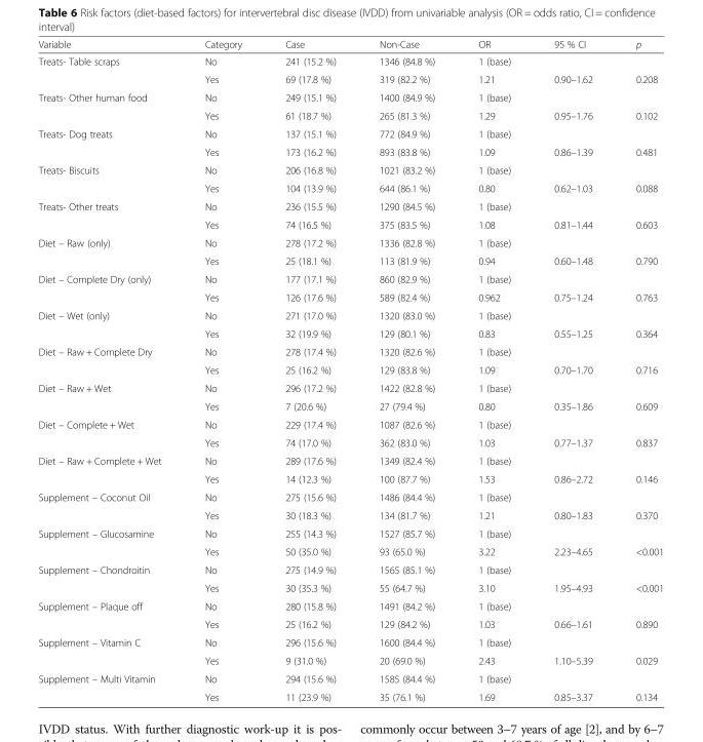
<table><thead><tr><td>Variable</td><td>Category</td><td>Case</td><td>Non-Case</td><td>OR</td><td>95 % CI</td><td>p</td></tr></thead><tbody><tr><td rowspan="2">Treats- Table scraps</td><td>No</td><td>241 (15.2 %)</td><td>1346 (84.8 %)</td><td>1 (base)</td><td></td><td></td></tr><tr><td>Yes</td><td>69 (17.8 %)</td><td>319 (82.2 %)</td><td>1.21</td><td>0.90–1.62</td><td>0.208</td></tr><tr><td rowspan="2">Treats- Other human food</td><td>No</td><td>249 (15.1 %)</td><td>1400 (84.9 %)</td><td>1 (base)</td><td></td><td></td></tr><tr><td>Yes</td><td>61 (18.7 %)</td><td>265 (81.3 %)</td><td>1.29</td><td>0.95–1.76</td><td>0.102</td></tr><tr><td rowspan="2">Treats- Dog treats</td><td>No</td><td>137 (15.1 %)</td><td>772 (84.9 %)</td><td>1 (base)</td><td></td><td></td></tr><tr><td>Yes</td><td>173 (16.2 %)</td><td>893 (83.8 %)</td><td>1.09</td><td>0.86–1.39</td><td>0.481</td></tr><tr><td rowspan="2">Treats- Biscuits</td><td>No</td><td>206 (16.8 %)</td><td>1021 (83.2 %)</td><td>1 (base)</td><td></td><td></td></tr><tr><td>Yes</td><td>104 (13.9 %)</td><td>644 (86.1 %)</td><td>0.80</td><td>0.62–1.03</td><td>0.088</td></tr><tr><td rowspan="2">Treats- Other treats</td><td>No</td><td>236 (15.5 %)</td><td>1290 (84.5 %)</td><td>1 (base)</td><td></td><td></td></tr><tr><td>Yes</td><td>74 (16.5 %)</td><td>375 (83.5 %)</td><td>1.08</td><td>0.81–1.44</td><td>0.603</td></tr><tr><td rowspan="2">Diet – Raw (only)</td><td>No</td><td>278 (17.2 %)</td><td>1336 (82.8 %)</td><td>1 (base)</td><td></td><td></td></tr><tr><td>Yes</td><td>25 (18.1 %)</td><td>113 (81.9 %)</td><td>0.94</td><td>0.60–1.48</td><td>0.790</td></tr><tr><td rowspan="2">Diet – Complete Dry (only)</td><td>No</td><td>177 (17.1 %)</td><td>860 (82.9 %)</td><td>1 (base)</td><td></td><td></td></tr><tr><td>Yes</td><td>126 (17.6 %)</td><td>589 (82.4 %)</td><td>0.962</td><td>0.75–1.24</td><td>0.763</td></tr><tr><td rowspan="2">Diet – Wet (only)</td><td>No</td><td>271 (17.0 %)</td><td>1320 (83.0 %)</td><td>1 (base)</td><td></td><td></td></tr><tr><td>Yes</td><td>32 (19.9 %)</td><td>129 (80.1 %)</td><td>0.83</td><td>0.55–1.25</td><td>0.364</td></tr><tr><td rowspan="2">Diet – Raw + Complete Dry</td><td>No</td><td>278 (17.4 %)</td><td>1320 (82.6 %)</td><td>1 (base)</td><td></td><td></td></tr><tr><td>Yes</td><td>25 (16.2 %)</td><td>129 (83.8 %)</td><td>1.09</td><td>0.70–1.70</td><td>0.716</td></tr><tr><td rowspan="2">Diet – Raw + Wet</td><td>No</td><td>296 (17.2 %)</td><td>1422 (82.8 %)</td><td>1 (base)</td><td></td><td></td></tr><tr><td>Yes</td><td>7 (20.6 %)</td><td>27 (79.4 %)</td><td>0.80</td><td>0.35–1.86</td><td>0.609</td></tr><tr><td rowspan="2">Diet – Complete + Wet</td><td>No</td><td>229 (17.4 %)</td><td>1087 (82.6 %)</td><td>1 (base)</td><td></td><td></td></tr><tr><td>Yes</td><td>74 (17.0 %)</td><td>362 (83.0 %)</td><td>1.03</td><td>0.77–1.37</td><td>0.837</td></tr><tr><td rowspan="2">Diet – Raw + Complete + Wet</td><td>No</td><td>289 (17.6 %)</td><td>1349 (82.4 %)</td><td>1 (base)</td><td></td><td></td></tr><tr><td>Yes</td><td>14 (12.3 %)</td><td>100 (87.7 %)</td><td>1.53</td><td>0.86–2.72</td><td>0.146</td></tr><tr><td rowspan="2">Supplement – Coconut Oil</td><td>No</td><td>275 (15.6 %)</td><td>1486 (84.4 %)</td><td>1 (base)</td><td></td><td></td></tr><tr><td>Yes</td><td>30 (18.3 %)</td><td>134 (81.7 %)</td><td>1.21</td><td>0.80–1.83</td><td>0.370</td></tr><tr><td rowspan="2">Supplement – Glucosamine</td><td>No</td><td>255 (14.3 %)</td><td>1527 (85.7 %)</td><td>1 (base)</td><td></td><td></td></tr><tr><td>Yes</td><td>50 (35.0 %)</td><td>93 (65.0 %)</td><td>3.22</td><td>2.23–4.65</td><td>&lt;0.001</td></tr><tr><td rowspan="2">Supplement – Chondroitin</td><td>No</td><td>275 (14.9 %)</td><td>1565 (85.1 %)</td><td>1 (base)</td><td></td><td></td></tr><tr><td>Yes</td><td>30 (35.3 %)</td><td>55 (64.7 %)</td><td>3.10</td><td>1.95–4.93</td><td>&lt;0.001</td></tr><tr><td rowspan="2">Supplement – Plaque off</td><td>No</td><td>280 (15.8 %)</td><td>1491 (84.2 %)</td><td>1 (base)</td><td></td><td></td></tr><tr><td>Yes</td><td>25 (16.2 %)</td><td>129 (84.2 %)</td><td>1.03</td><td>0.66–1.61</td><td>0.890</td></tr><tr><td rowspan="2">Supplement – Vitamin C</td><td>No</td><td>296 (15.6 %)</td><td>1600 (84.4 %)</td><td>1 (base)</td><td></td><td></td></tr><tr><td>Yes</td><td>9 (31.0 %)</td><td>20 (69.0 %)</td><td>2.43</td><td>1.10–5.39</td><td>0.029</td></tr><tr><td rowspan="2">Supplement – Multi Vitamin</td><td>No</td><td>294 (15.6 %)</td><td>1585 (84.4 %)</td><td>1 (base)</td><td></td><td></td></tr><tr><td>Yes</td><td>11 (23.9 %)</td><td>35 (76.1 %)</td><td>1.69</td><td>0.85–3.37</td><td>0.134</td></tr></tbody></table>